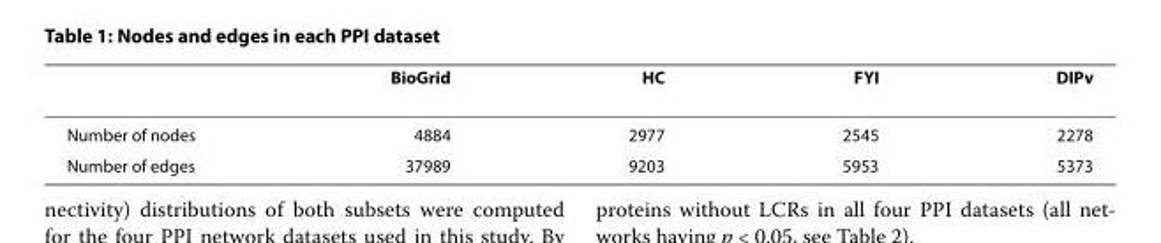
<table><thead><tr><td></td><td>BioGrid</td><td>HC</td><td>FYI</td><td>DIPv</td></tr></thead><tbody><tr><td>Number of nodes</td><td>4884</td><td>2977</td><td>2545</td><td>2278</td></tr><tr><td>Number of edges</td><td>37989</td><td>9203</td><td>5953</td><td>5373</td></tr></tbody></table>